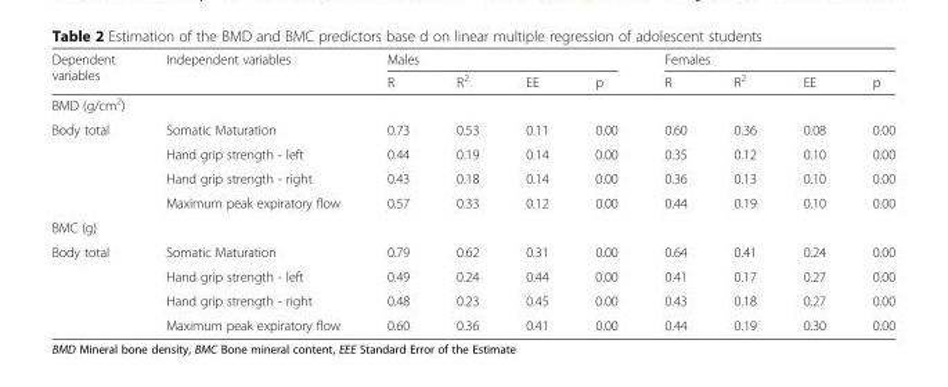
<table><thead><tr><td rowspan="2">Dependent variables</td><td rowspan="2">Independent variables</td><td colspan="4">Males</td><td colspan="4">Females</td></tr><tr><td>R</td><td>R<sup>2</sup></td><td>EE</td><td>p</td><td>R</td><td>R<sup>2</sup></td><td>EE</td><td>p</td></tr></thead><tbody><tr><td colspan="10">BMD (g/cm<sup>2</sup>)</td></tr><tr><td rowspan="4">Body total</td><td>Somatic Maturation</td><td>0.73</td><td>0.53</td><td>0.11</td><td>0.00</td><td>0.60</td><td>0.36</td><td>0.08</td><td>0.00</td></tr><tr><td>Hand grip strength - left</td><td>0.44</td><td>0.19</td><td>0.14</td><td>0.00</td><td>0.35</td><td>0.12</td><td>0.10</td><td>0.00</td></tr><tr><td>Hand grip strength - right</td><td>0.43</td><td>0.18</td><td>0.14</td><td>0.00</td><td>0.36</td><td>0.13</td><td>0.10</td><td>0.00</td></tr><tr><td>Maximum peak expiratory flow</td><td>0.57</td><td>0.33</td><td>0.12</td><td>0.00</td><td>0.44</td><td>0.19</td><td>0.10</td><td>0.00</td></tr><tr><td colspan="10">BMC (g)</td></tr><tr><td rowspan="4">Body total</td><td>Somatic Maturation</td><td>0.79</td><td>0.62</td><td>0.31</td><td>0.00</td><td>0.64</td><td>0.41</td><td>0.24</td><td>0.00</td></tr><tr><td>Hand grip strength - left</td><td>0.49</td><td>0.24</td><td>0.44</td><td>0.00</td><td>0.41</td><td>0.17</td><td>0.27</td><td>0.00</td></tr><tr><td>Hand grip strength - right</td><td>0.48</td><td>0.23</td><td>0.45</td><td>0.00</td><td>0.43</td><td>0.18</td><td>0.27</td><td>0.00</td></tr><tr><td>Maximum peak expiratory flow</td><td>0.60</td><td>0.36</td><td>0.41</td><td>0.00</td><td>0.44</td><td>0.19</td><td>0.30</td><td>0.00</td></tr></tbody></table>